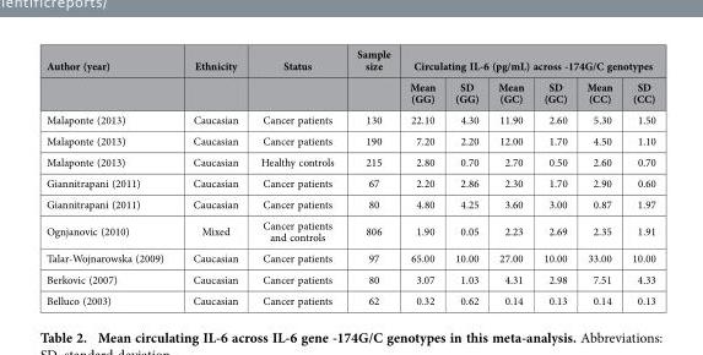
<table><thead><tr><td rowspan="2">Author (year)</td><td rowspan="2">Ethnicity</td><td rowspan="2">Status</td><td rowspan="2">Sample size</td><td colspan="6">Circulating IL-6 (pg/mL) across -174G/C genotypes</td></tr><tr><td>Mean (GG)</td><td>SD (GG)</td><td>Mean (GC)</td><td>SD (GC)</td><td>Mean (CC)</td><td>SD (CC)</td></tr></thead><tbody><tr><td>Malaponte (2013)</td><td>Caucasian</td><td>Cancer patients</td><td>130</td><td>22.10</td><td>4.30</td><td>11.90</td><td>2.60</td><td>5.30</td><td>1.50</td></tr><tr><td>Malaponte (2013)</td><td>Caucasian</td><td>Cancer patients</td><td>190</td><td>7.20</td><td>2.20</td><td>12.00</td><td>1.70</td><td>4.50</td><td>1.10</td></tr><tr><td>Malaponte (2013)</td><td>Caucasian</td><td>Healthy controls</td><td>215</td><td>2.80</td><td>0.70</td><td>2.70</td><td>0.50</td><td>2.60</td><td>0.70</td></tr><tr><td>Giannitrapani (2011)</td><td>Caucasian</td><td>Cancer patients</td><td>67</td><td>2.20</td><td>2.86</td><td>2.30</td><td>1.70</td><td>2.90</td><td>0.60</td></tr><tr><td>Giannitrapani (2011)</td><td>Caucasian</td><td>Cancer patients</td><td>80</td><td>4.80</td><td>4.25</td><td>3.60</td><td>3.00</td><td>0.87</td><td>1.97</td></tr><tr><td>Ognjanovic (2010)</td><td>Mixed</td><td>Cancer patients and controls</td><td>806</td><td>1.90</td><td>0.05</td><td>2.23</td><td>2.69</td><td>2.35</td><td>1.91</td></tr><tr><td>Talar-Wojnarowska (2009)</td><td>Caucasian</td><td>Cancer patients</td><td>97</td><td>65.00</td><td>10.00</td><td>27.00</td><td>10.00</td><td>33.00</td><td>10.00</td></tr><tr><td>Berkovic (2007)</td><td>Caucasian</td><td>Cancer patients</td><td>80</td><td>3.07</td><td>1.03</td><td>4.31</td><td>2.98</td><td>7.51</td><td>4.33</td></tr><tr><td>Belluco (2003)</td><td>Caucasian</td><td>Cancer patients</td><td>62</td><td>0.32</td><td>0.62</td><td>0.14</td><td>0.13</td><td>0.14</td><td>0.13</td></tr></tbody></table>